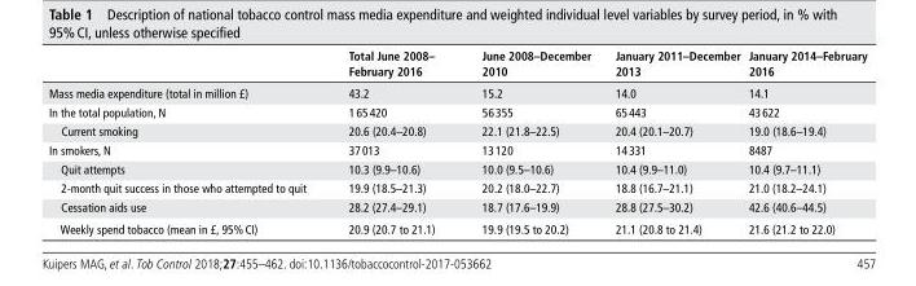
<table><thead><tr><td></td><td>Total June 2008– February 2016</td><td>June 2008–december 2010</td><td>January 2011–december 2013</td><td>January 2014–February 2016</td></tr></thead><tbody><tr><td>Mass media expenditure (total in million £)</td><td>43.2</td><td>15.2</td><td>14.0</td><td>14.1</td></tr><tr><td>In the total population, N</td><td>1 65 420</td><td>56 355</td><td>65 443</td><td>43 622</td></tr><tr><td>Current smoking</td><td>20.6 (20.4–20.8)</td><td>22.1 (21.8–22.5)</td><td>20.4 (20.1–20.7)</td><td>19.0 (18.6–19.4)</td></tr><tr><td>In smokers, N</td><td>37 013</td><td>13 120</td><td>14 331</td><td>8487</td></tr><tr><td>Quit attempts</td><td>10.3 (9.9–10.6)</td><td>10.0 (9.5–10.6)</td><td>10.4 (9.9–11.0)</td><td>10.4 (9.7–11.1)</td></tr><tr><td>2-month quit success in those who attempted to quit</td><td>19.9 (18.5–21.3)</td><td>20.2 (18.0–22.7)</td><td>18.8 (16.7–21.1)</td><td>21.0 (18.2–24.1)</td></tr><tr><td>Cessation aids use</td><td>28.2 (27.4–29.1)</td><td>18.7 (17.6–19.9)</td><td>28.8 (27.5–30.2)</td><td>42.6 (40.6–44.5)</td></tr><tr><td>Weekly spend tobacco (mean in £, 95% CI)</td><td>20.9 (20.7 to 21.1)</td><td>19.9 (19.5 to 20.2)</td><td>21.1 (20.8 to 21.4)</td><td>21.6 (21.2 to 22.0)</td></tr></tbody></table>